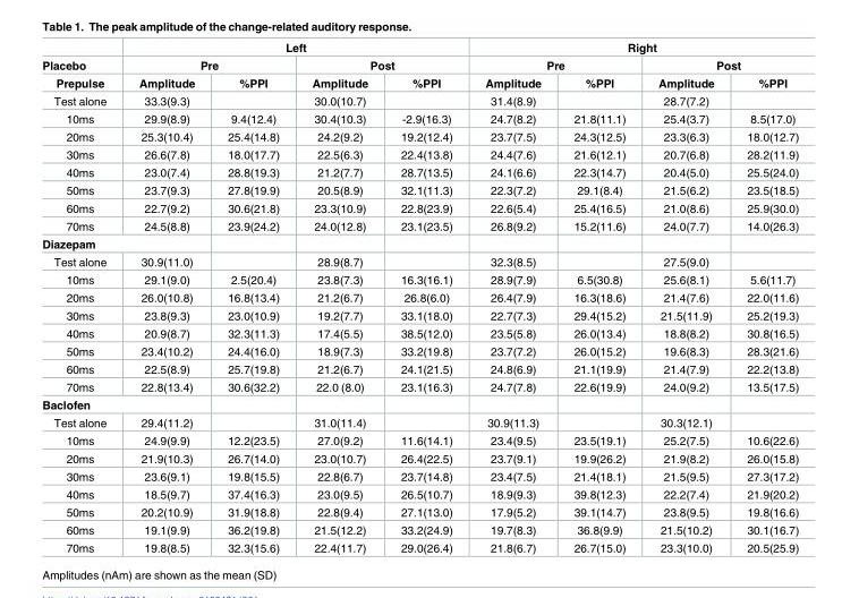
<table><thead><tr><td rowspan="3">Placebo Prepulse</td><td colspan="4">Left</td><td colspan="4">Right</td></tr><tr><td colspan="2">Pre</td><td colspan="2">Post</td><td colspan="2">Pre</td><td colspan="2">Post</td></tr><tr><td>Amplitude</td><td>%PPI</td><td>Amplitude</td><td>%PPI</td><td>Amplitude</td><td>%PPI</td><td>Amplitude</td><td>%PPI</td></tr></thead><tbody><tr><td>Test alone</td><td>33.3(9.3)</td><td></td><td>30.0(10.7)</td><td></td><td>31.4(8.9)</td><td></td><td>28.7(7.2)</td><td></td></tr><tr><td>10ms</td><td>29.9(8.9)</td><td>9.4(12.4)</td><td>30.4(10.3)</td><td>-2.9(16.3)</td><td>24.7(8.2)</td><td>21.8(11.1)</td><td>25.4(3.7)</td><td>8.5(17.0)</td></tr><tr><td>20ms</td><td>25.3(10.4)</td><td>25.4(14.8)</td><td>24.2(9.2)</td><td>19.2(12.4)</td><td>23.7(7.5)</td><td>24.3(12.5)</td><td>23.3(6.3)</td><td>18.0(12.7)</td></tr><tr><td>30ms</td><td>26.6(7.8)</td><td>18.0(17.7)</td><td>22.5(6.3)</td><td>22.4(13.8)</td><td>24.4(7.6)</td><td>21.6(12.1)</td><td>20.7(6.8)</td><td>28.2(11.9)</td></tr><tr><td>40ms</td><td>23.0(7.4)</td><td>28.8(19.3)</td><td>21.2(7.7)</td><td>28.7(13.5)</td><td>24.1(6.6)</td><td>22.3(14.7)</td><td>20.4(5.0)</td><td>25.5(24.0)</td></tr><tr><td>50ms</td><td>23.7(9.3)</td><td>27.8(19.9)</td><td>20.5(8.9)</td><td>32.1(11.3)</td><td>22.3(7.2)</td><td>29.1(8.4)</td><td>21.5(6.2)</td><td>23.5(18.5)</td></tr><tr><td>60ms</td><td>22.7(9.2)</td><td>30.6(21.8)</td><td>23.3(10.9)</td><td>22.8(23.9)</td><td>22.6(5.4)</td><td>25.4(16.5)</td><td>21.0(8.6)</td><td>25.9(30.0)</td></tr><tr><td>70ms</td><td>24.5(8.8)</td><td>23.9(24.2)</td><td>24.0(12.8)</td><td>23.1(23.5)</td><td>26.8(9.2)</td><td>15.2(11.6)</td><td>24.0(7.7)</td><td>14.0(26.3)</td></tr><tr><td colspan="9">Diazepam</td></tr><tr><td>Test alone</td><td>30.9(11.0)</td><td></td><td>28.9(8.7)</td><td></td><td>32.3(8.5)</td><td></td><td>27.5(9.0)</td><td></td></tr><tr><td>10ms</td><td>29.1(9.0)</td><td>2.5(20.4)</td><td>23.8(7.3)</td><td>16.3(16.1)</td><td>28.9(7.9)</td><td>6.5(30.8)</td><td>25.6(8.1)</td><td>5.6(11.7)</td></tr><tr><td>20ms</td><td>26.0(10.8)</td><td>16.8(13.4)</td><td>21.2(6.7)</td><td>26.8(6.0)</td><td>26.4(7.9)</td><td>16.3(18.6)</td><td>21.4(7.6)</td><td>22.0(11.6)</td></tr><tr><td>30ms</td><td>23.8(9.3)</td><td>23.0(10.9)</td><td>19.2(7.7)</td><td>33.1(18.0)</td><td>22.7(7.3)</td><td>29.4(15.2)</td><td>21.5(11.9)</td><td>25.2(19.3)</td></tr><tr><td>40ms</td><td>20.9(8.7)</td><td>32.3(11.3)</td><td>17.4(5.5)</td><td>38.5(12.0)</td><td>23.5(5.8)</td><td>26.0(13.4)</td><td>18.8(8.2)</td><td>30.8(16.5)</td></tr><tr><td>50ms</td><td>23.4(10.2)</td><td>24.4(16.0)</td><td>18.9(7.3)</td><td>33.2(19.8)</td><td>23.7(7.2)</td><td>26.0(15.2)</td><td>19.6(8.3)</td><td>28.3(21.6)</td></tr><tr><td>60ms</td><td>22.5(8.9)</td><td>25.7(19.8)</td><td>21.2(6.7)</td><td>24.1(21.5)</td><td>24.8(6.9)</td><td>21.1(19.9)</td><td>21.4(7.9)</td><td>22.2(13.8)</td></tr><tr><td>70ms</td><td>22.8(13.4)</td><td>30.6(32.2)</td><td>22.0 (8.0)</td><td>23.1(16.3)</td><td>24.7(7.8)</td><td>22.6(19.9)</td><td>24.0(9.2)</td><td>13.5(17.5)</td></tr><tr><td colspan="9">Baclofen</td></tr><tr><td>Test alone</td><td>29.4(11.2)</td><td></td><td>31.0(11.4)</td><td></td><td>30.9(11.3)</td><td></td><td>30.3(12.1)</td><td></td></tr><tr><td>10ms</td><td>24.9(9.9)</td><td>12.2(23.5)</td><td>27.0(9.2)</td><td>11.6(14.1)</td><td>23.4(9.5)</td><td>23.5(19.1)</td><td>25.2(7.5)</td><td>10.6(22.6)</td></tr><tr><td>20ms</td><td>21.9(10.3)</td><td>26.7(14.0)</td><td>23.0(10.7)</td><td>26.4(22.5)</td><td>23.7(9.1)</td><td>19.9(26.2)</td><td>21.9(8.2)</td><td>26.0(15.8)</td></tr><tr><td>30ms</td><td>23.6(9.1)</td><td>19.8(15.5)</td><td>22.8(6.7)</td><td>23.7(14.8)</td><td>23.4(7.5)</td><td>21.4(18.1)</td><td>21.5(9.5)</td><td>27.3(17.2)</td></tr><tr><td>40ms</td><td>18.5(9.7)</td><td>37.4(16.3)</td><td>23.0(9.5)</td><td>26.5(10.7)</td><td>18.9(9.3)</td><td>39.8(12.3)</td><td>22.2(7.4)</td><td>21.9(20.2)</td></tr><tr><td>50ms</td><td>20.2(10.9)</td><td>31.9(18.8)</td><td>22.8(9.4)</td><td>27.1(13.0)</td><td>17.9(5.2)</td><td>39.1(14.7)</td><td>23.8(9.5)</td><td>19.8(16.6)</td></tr><tr><td>60ms</td><td>19.1(9.9)</td><td>36.2(19.8)</td><td>21.5(12.2)</td><td>33.2(24.9)</td><td>19.7(8.3)</td><td>36.8(9.9)</td><td>21.5(10.2)</td><td>30.1(16.7)</td></tr><tr><td>70ms</td><td>19.8(8.5)</td><td>32.3(15.6)</td><td>22.4(11.7)</td><td>29.0(26.4)</td><td>21.8(6.7)</td><td>26.7(15.0)</td><td>23.3(10.0)</td><td>20.5(25.9)</td></tr></tbody></table>